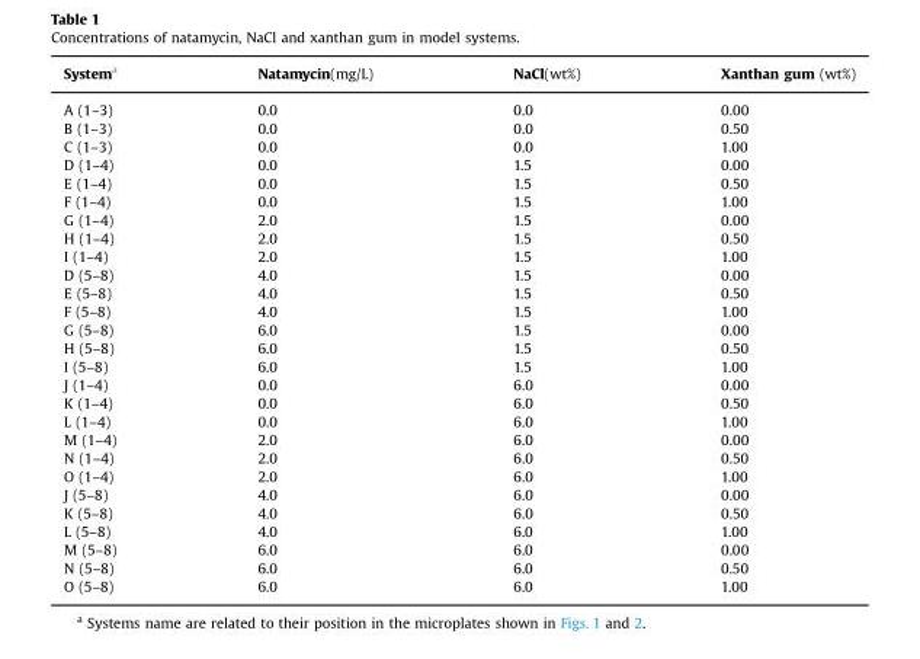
<table><thead><tr><td>System<sup>a</sup></td><td>Natamycin(mg/L)</td><td>NaCl(wt%)</td><td>Xanthan gum (wt%)</td></tr></thead><tbody><tr><td>A (1–3)</td><td>0.0</td><td>0.0</td><td>0.00</td></tr><tr><td>B (1–3)</td><td>0.0</td><td>0.0</td><td>0.50</td></tr><tr><td>C (1–3)</td><td>0.0</td><td>0.0</td><td>1.00</td></tr><tr><td>D (1–4)</td><td>0.0</td><td>1.5</td><td>0.00</td></tr><tr><td>E (1–4)</td><td>0.0</td><td>1.5</td><td>0.50</td></tr><tr><td>F (1–4)</td><td>0.0</td><td>1.5</td><td>1.00</td></tr><tr><td>G (1–4)</td><td>2.0</td><td>1.5</td><td>0.00</td></tr><tr><td>H (1–4)</td><td>2.0</td><td>1.5</td><td>0.50</td></tr><tr><td>I (1–4)</td><td>2.0</td><td>1.5</td><td>1.00</td></tr><tr><td>D (5–8)</td><td>4.0</td><td>1.5</td><td>0.00</td></tr><tr><td>E (5–8)</td><td>4.0</td><td>1.5</td><td>0.50</td></tr><tr><td>F (5–8)</td><td>4.0</td><td>1.5</td><td>1.00</td></tr><tr><td>G (5–8)</td><td>6.0</td><td>1.5</td><td>0.00</td></tr><tr><td>H (5–8)</td><td>6.0</td><td>1.5</td><td>0.50</td></tr><tr><td>I (5–8)</td><td>6.0</td><td>1.5</td><td>1.00</td></tr><tr><td>J (1–4)</td><td>0.0</td><td>6.0</td><td>0.00</td></tr><tr><td>K (1–4)</td><td>0.0</td><td>6.0</td><td>0.50</td></tr><tr><td>L (1–4)</td><td>0.0</td><td>6.0</td><td>1.00</td></tr><tr><td>M (1–4)</td><td>2.0</td><td>6.0</td><td>0.00</td></tr><tr><td>N (1–4)</td><td>2.0</td><td>6.0</td><td>0.50</td></tr><tr><td>O (1–4)</td><td>2.0</td><td>6.0</td><td>1.00</td></tr><tr><td>J (5–8)</td><td>4.0</td><td>6.0</td><td>0.00</td></tr><tr><td>K (5–8)</td><td>4.0</td><td>6.0</td><td>0.50</td></tr><tr><td>L (5–8)</td><td>4.0</td><td>6.0</td><td>1.00</td></tr><tr><td>M (5–8)</td><td>6.0</td><td>6.0</td><td>0.00</td></tr><tr><td>N (5–8)</td><td>6.0</td><td>6.0</td><td>0.50</td></tr><tr><td>O (5–8)</td><td>6.0</td><td>6.0</td><td>1.00</td></tr></tbody></table>